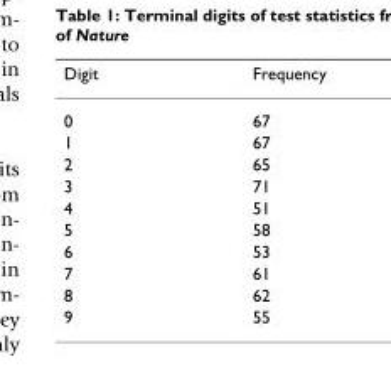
<table><thead><tr><td>Digit</td><td>Frequency</td></tr></thead><tbody><tr><td>0</td><td>67</td></tr><tr><td>1</td><td>67</td></tr><tr><td>2</td><td>65</td></tr><tr><td>3</td><td>71</td></tr><tr><td>4</td><td>51</td></tr><tr><td>5</td><td>58</td></tr><tr><td>6</td><td>53</td></tr><tr><td>7</td><td>61</td></tr><tr><td>8</td><td>62</td></tr><tr><td>9</td><td>55</td></tr></tbody></table>